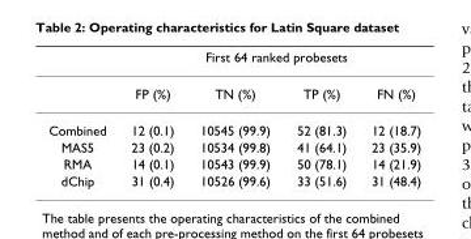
<table><thead><tr><td rowspan="2"></td><td colspan="4">First 64 ranked probesets</td></tr><tr><td>FP (%)</td><td>TN (%)</td><td>TP (%)</td><td>FN (%)</td></tr></thead><tbody><tr><td>Combined</td><td>12 (0.1)</td><td>10545 (99.9)</td><td>52 (81.3)</td><td>12 (18.7)</td></tr><tr><td>MAS5</td><td>23 (0.2)</td><td>10534 (99.8)</td><td>41 (64.1)</td><td>23 (35.9)</td></tr><tr><td>RMA</td><td>14 (0.1)</td><td>10543 (99.9)</td><td>50 (78.1)</td><td>14 (21.9)</td></tr><tr><td>dChip</td><td>31 (0.4)</td><td>10526 (99.6)</td><td>33 (51.6)</td><td>31 (48.4)</td></tr></tbody></table>